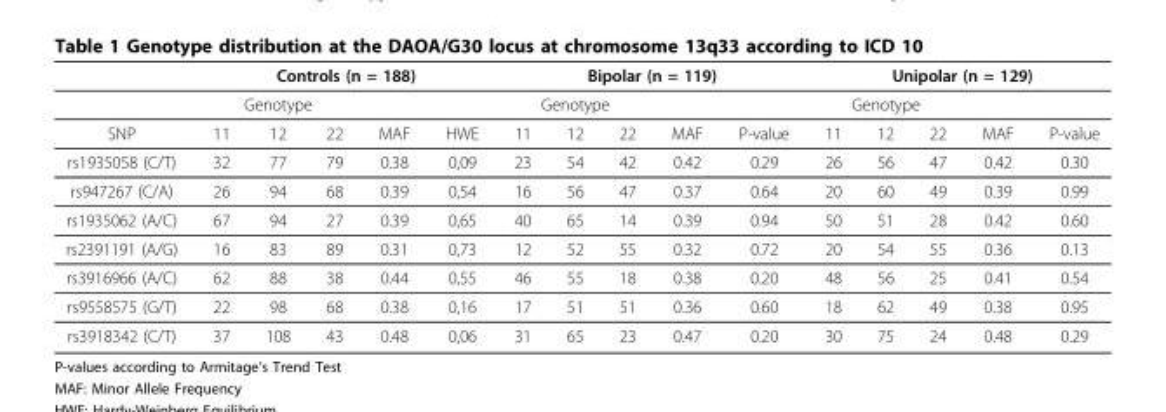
<table><thead><tr><td rowspan="3">SNP</td><td colspan="5">Controls (n = 188)</td><td colspan="5">Bipolar (n = 119)</td><td colspan="5">Unipolar (n = 129)</td></tr><tr><td colspan="3">Genotype</td><td rowspan="2">MAF</td><td rowspan="2">HWE</td><td colspan="3">Genotype</td><td colspan="2"></td><td colspan="3">Genotype</td><td colspan="2"></td></tr><tr><td>11</td><td>12</td><td>22</td><td>11</td><td>12</td><td>22</td><td>MAF</td><td>P-value</td><td>11</td><td>12</td><td>22</td><td>MAF</td><td>P-value</td></tr></thead><tbody><tr><td>rs1935058 (C/T)</td><td>32</td><td>77</td><td>79</td><td>0.38</td><td>0,09</td><td>23</td><td>54</td><td>42</td><td>0.42</td><td>0.29</td><td>26</td><td>56</td><td>47</td><td>0.42</td><td>0.30</td></tr><tr><td>rs947267 (C/A)</td><td>26</td><td>94</td><td>68</td><td>0.39</td><td>0,54</td><td>16</td><td>56</td><td>47</td><td>0.37</td><td>0.64</td><td>20</td><td>60</td><td>49</td><td>0.39</td><td>0.99</td></tr><tr><td>rs1935062 (A/C)</td><td>67</td><td>94</td><td>27</td><td>0.39</td><td>0,65</td><td>40</td><td>65</td><td>14</td><td>0.39</td><td>0.94</td><td>50</td><td>51</td><td>28</td><td>0.42</td><td>0.60</td></tr><tr><td>rs2391191 (A/G)</td><td>16</td><td>83</td><td>89</td><td>0.31</td><td>0,73</td><td>12</td><td>52</td><td>55</td><td>0.32</td><td>0.72</td><td>20</td><td>54</td><td>55</td><td>0.36</td><td>0.13</td></tr><tr><td>rs3916966 (A/C)</td><td>62</td><td>88</td><td>38</td><td>0.44</td><td>0,55</td><td>46</td><td>55</td><td>18</td><td>0.38</td><td>0.20</td><td>48</td><td>56</td><td>25</td><td>0.41</td><td>0.54</td></tr><tr><td>rs9558575 (G/T)</td><td>22</td><td>98</td><td>68</td><td>0.38</td><td>0,16</td><td>17</td><td>51</td><td>51</td><td>0.36</td><td>0.60</td><td>18</td><td>62</td><td>49</td><td>0.38</td><td>0.95</td></tr><tr><td>rs3918342 (C/T)</td><td>37</td><td>108</td><td>43</td><td>0.48</td><td>0,06</td><td>31</td><td>65</td><td>23</td><td>0.47</td><td>0.20</td><td>30</td><td>75</td><td>24</td><td>0.48</td><td>0.29</td></tr></tbody></table>